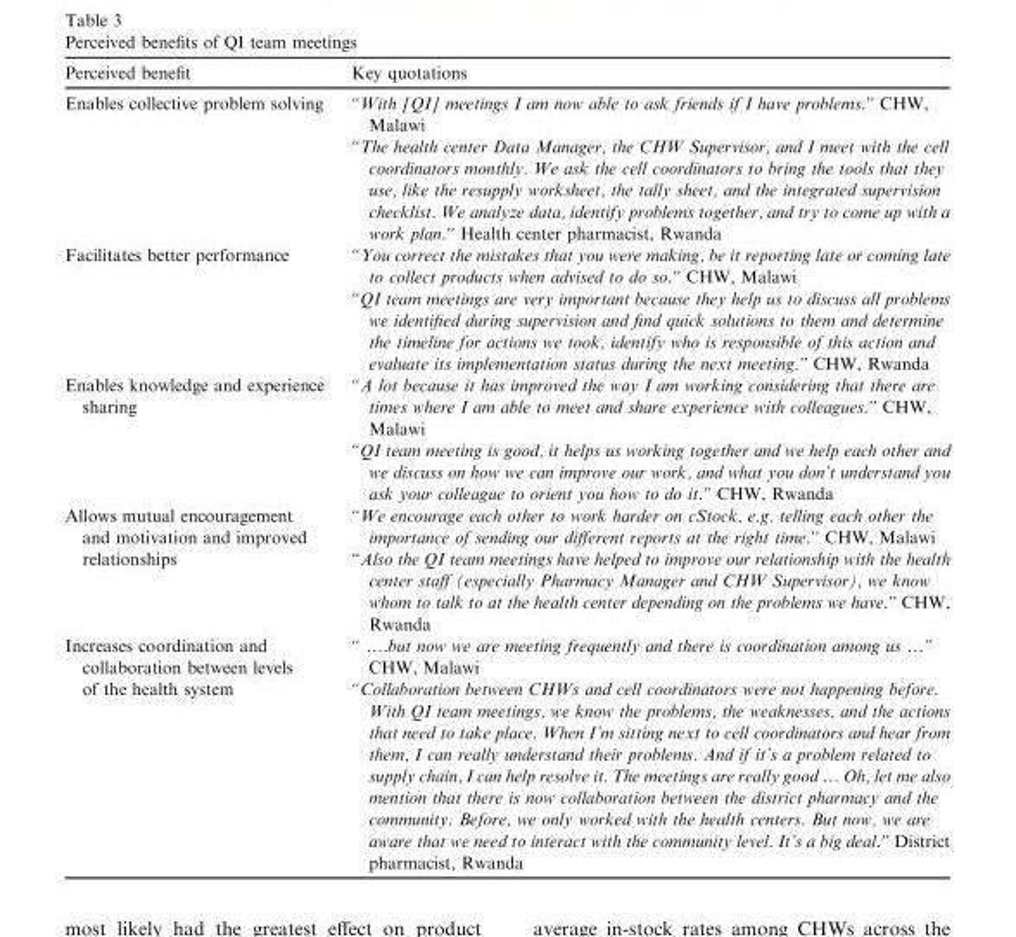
<table><thead><tr><td>Perceived benefit</td><td>Key quotations</td></tr></thead><tbody><tr><td rowspan="2">Enables collective problem solving</td><td>“With [QI] meetings I am now able to ask friends if I have problems.” CHW, Malawi</td></tr><tr><td>“The health center Data Manager, the CHW Supervisor, and I meet with the cell coordinators monthly. We ask the cell coordinators to bring the tools that they use, like the resupply worksheet, the tally sheet, and the integrated supervision checklist. We analyze data, identify problems together, and try to come up with a work plan.” Health center pharmacist, Rwanda</td></tr><tr><td rowspan="2">Facilitates better performance</td><td>“You correct the mistakes that you were making, be it reporting late or coming late to collect products when advised to do so.” CHW, Malawi</td></tr><tr><td>“QI team meetings are very important because they help us to discuss all problems we identified during supervision and find quick solutions to them and determine the timeline for actions we took, identify who is responsible of this action and evaluate its implementation status during the next meeting.” CHW, Rwanda</td></tr><tr><td rowspan="2">Enables knowledge and experience sharing</td><td>“A lot because it has improved the way I am working considering that there are times where I am able to meet and share experience with colleagues.” CHW, Malawi</td></tr><tr><td>“QI team meeting is good, it helps us working together and we help each other and we discuss on how we can improve our work, and what you don’t understand you ask your colleague to orient you how to do it.” CHW, Rwanda</td></tr><tr><td rowspan="2">Allows mutual encouragement and motivation and improved relationships</td><td>“We encourage each other to work harder on cStock, e.g. telling each other the importance of sending our different reports at the right time.” CHW, Malawi</td></tr><tr><td>“Also the QI team meetings have helped to improve our relationship with the health center staff (especially Pharmacy Manager and CHW Supervisor), we know whom to talk to at the health center depending on the problems we have.” CHW, Rwanda</td></tr><tr><td rowspan="2">Increases coordination and collaboration between levels of the health system</td><td>“ ….but now we are meeting frequently and there is coordination among us …” CHW, Malawi</td></tr><tr><td>“Collaboration between CHWs and cell coordinators were not happening before. With QI team meetings, we know the problems, the weaknesses, and the actions that need to take place. When I’m sitting next to cell coordinators and hear from them, I can really understand their problems. And if it’s a problem related to supply chain, I can help resolve it. The meetings are really good … Oh, let me also mention that there is now collaboration between the district pharmacy and the community. Before, we only worked with the health centers. But now, we are aware that we need to interact with the community level. It’s a big deal.” District pharmacist, Rwanda</td></tr></tbody></table>